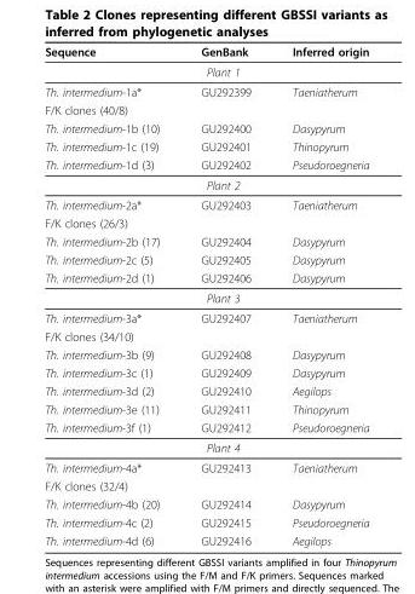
<table><thead><tr><td>Sequence</td><td>GenBank</td><td>Inferred origin</td></tr></thead><tbody><tr><td colspan="3">Plant 1</td></tr><tr><td>Th. intermedium-1a*</td><td>GU292399</td><td>Taeniatherum</td></tr><tr><td colspan="3">F/K clones (40/8)</td></tr><tr><td>Th. intermedium-1b (10)</td><td>GU292400</td><td>Dasypyrum</td></tr><tr><td>Th. intermedium-1c (19)</td><td>GU292401</td><td>Thinopyrum</td></tr><tr><td>Th. intermedium-1d (3)</td><td>GU292402</td><td>Pseudoroegneria</td></tr><tr><td colspan="3">Plant 2</td></tr><tr><td>Th. intermedium-2a*</td><td>GU292403</td><td>Taeniatherum</td></tr><tr><td colspan="3">F/K clones (26/3)</td></tr><tr><td>Th. intermedium-2b (17)</td><td>GU292404</td><td>Dasypyrum</td></tr><tr><td>Th. intermedium-2c (5)</td><td>GU292405</td><td>Dasypyrum</td></tr><tr><td>Th. intermedium-2d (1)</td><td>GU292406</td><td>Dasypyrum</td></tr><tr><td colspan="3">Plant 3</td></tr><tr><td>Th. intermedium-3a*</td><td>GU292407</td><td>Taeniatherum</td></tr><tr><td colspan="3">F/K clones (34/10)</td></tr><tr><td>Th. intermedium-3b (9)</td><td>GU292408</td><td>Dasypyrum</td></tr><tr><td>Th. intermedium-3c (1)</td><td>GU292409</td><td>Dasypyrum</td></tr><tr><td>Th. intermedium-3d (2)</td><td>GU292410</td><td>Aegilops</td></tr><tr><td>Th. intermedium-3e (11)</td><td>GU292411</td><td>Thinopyrum</td></tr><tr><td>Th. intermedium-3f (1)</td><td>GU292412</td><td>Pseudoroegneria</td></tr><tr><td colspan="3">Plant 4</td></tr><tr><td>Th. intermedium-4a*</td><td>GU292413</td><td>Taeniatherum</td></tr><tr><td colspan="3">F/K clones (32/4)</td></tr><tr><td>Th. intermedium-4b (20)</td><td>GU292414</td><td>Dasypyrum</td></tr><tr><td>Th. intermedium-4c (2)</td><td>GU292415</td><td>Pseudoroegneria</td></tr><tr><td>Th. intermedium-4d (6)</td><td>GU292416</td><td>Aegilops</td></tr></tbody></table>